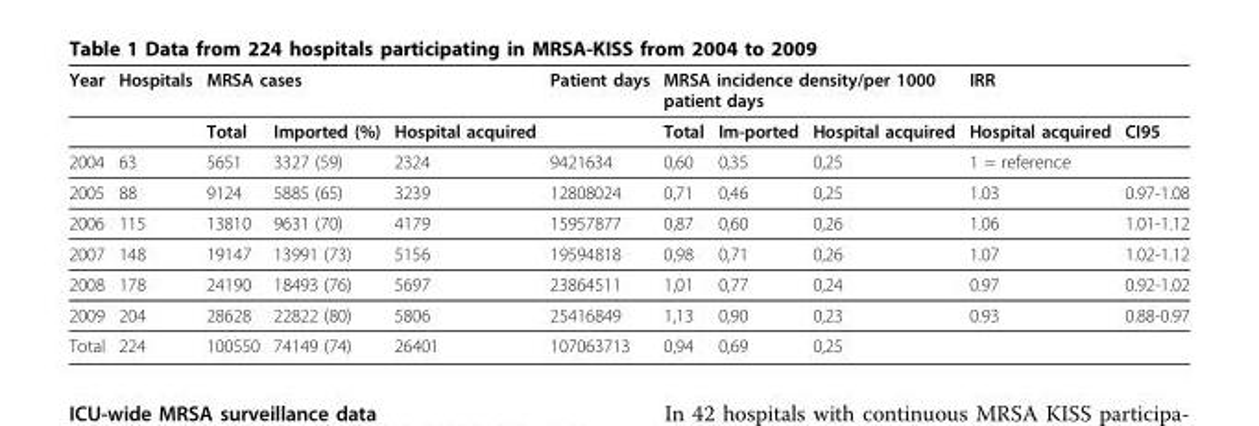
<table><thead><tr><td rowspan="2">Year</td><td rowspan="2">Hospitals</td><td colspan="3">MRSA cases</td><td rowspan="2">Patient days</td><td colspan="3">MRSA incidence density/per 1000 patient days</td><td rowspan="2">IRR Hospital acquired</td><td rowspan="2">CI95</td></tr><tr><td>Total</td><td>Imported (%)</td><td>Hospital acquired</td><td>Total</td><td>Im-ported</td><td>Hospital acquired</td></tr></thead><tbody><tr><td>2004</td><td>63</td><td>5651</td><td>3327 (59)</td><td>2324</td><td>9421634</td><td>0,60</td><td>0,35</td><td>0,25</td><td>1 = reference</td><td></td></tr><tr><td>2005</td><td>88</td><td>9124</td><td>5885 (65)</td><td>3239</td><td>12808024</td><td>0,71</td><td>0,46</td><td>0,25</td><td>1.03</td><td>0.97-1.08</td></tr><tr><td>2006</td><td>115</td><td>13810</td><td>9631 (70)</td><td>4179</td><td>15957877</td><td>0,87</td><td>0,60</td><td>0,26</td><td>1.06</td><td>1.01-1.12</td></tr><tr><td>2007</td><td>148</td><td>19147</td><td>13991 (73)</td><td>5156</td><td>19594818</td><td>0,98</td><td>0,71</td><td>0,26</td><td>1.07</td><td>1.02-1.12</td></tr><tr><td>2008</td><td>178</td><td>24190</td><td>18493 (76)</td><td>5697</td><td>23864511</td><td>1,01</td><td>0,77</td><td>0,24</td><td>0.97</td><td>0.92-1.02</td></tr><tr><td>2009</td><td>204</td><td>28628</td><td>22822 (80)</td><td>5806</td><td>25416849</td><td>1,13</td><td>0,90</td><td>0,23</td><td>0.93</td><td>0.88-0.97</td></tr><tr><td>Total</td><td>224</td><td>100550</td><td>74149 (74)</td><td>26401</td><td>107063713</td><td>0,94</td><td>0,69</td><td>0,25</td><td></td><td></td></tr></tbody></table>